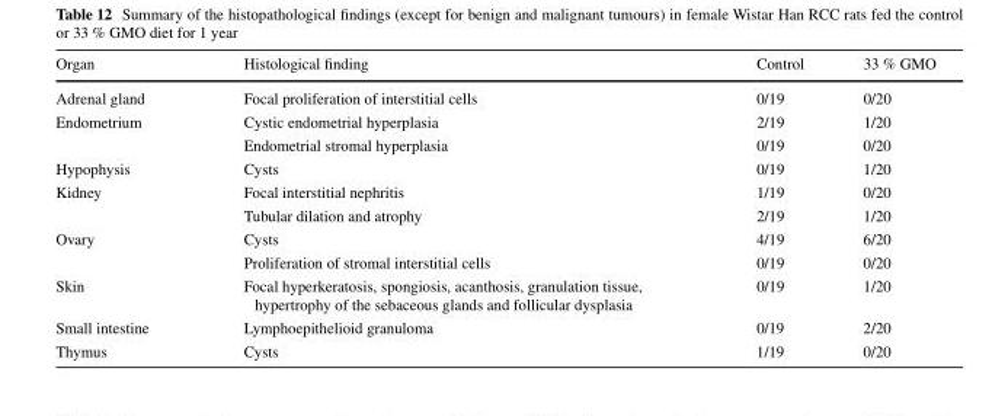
<table><thead><tr><td>Organ</td><td>Histological finding</td><td>Control</td><td>33 % GMO</td></tr></thead><tbody><tr><td>Adrenal gland</td><td>Focal proliferation of interstitial cells</td><td>0/19</td><td>0/20</td></tr><tr><td rowspan="2">Endometrium</td><td>Cystic endometrial hyperplasia</td><td>2/19</td><td>1/20</td></tr><tr><td>Endometrial stromal hyperplasia</td><td>0/19</td><td>0/20</td></tr><tr><td>Hypophysis</td><td>Cysts</td><td>0/19</td><td>1/20</td></tr><tr><td rowspan="2">Kidney</td><td>Focal interstitial nephritis</td><td>1/19</td><td>0/20</td></tr><tr><td>Tubular dilation and atrophy</td><td>2/19</td><td>1/20</td></tr><tr><td rowspan="2">Ovary</td><td>Cysts</td><td>4/19</td><td>6/20</td></tr><tr><td>Proliferation of stromal interstitial cells</td><td>0/19</td><td>0/20</td></tr><tr><td>Skin</td><td>Focal hyperkeratosis, spongiosis, acanthosis, granulation tissue, hypertrophy of the sebaceous glands and follicular dysplasia</td><td>0/19</td><td>1/20</td></tr><tr><td>Small intestine</td><td>Lymphoepithelioid granuloma</td><td>0/19</td><td>2/20</td></tr><tr><td>Thymus</td><td>Cysts</td><td>1/19</td><td>0/20</td></tr></tbody></table>